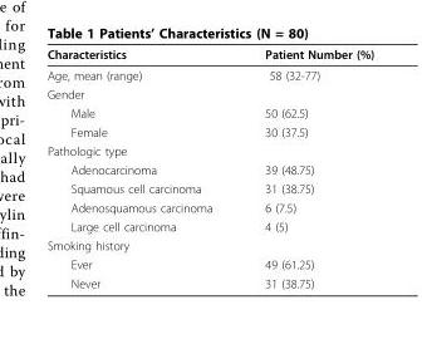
<table><thead><tr><td>Characteristics</td><td>Patient Number (%)</td></tr></thead><tbody><tr><td>Age, mean (range)</td><td>58 (32-77)</td></tr><tr><td colspan="2">Gender</td></tr><tr><td>Male</td><td>50 (62.5)</td></tr><tr><td>Female</td><td>30 (37.5)</td></tr><tr><td colspan="2">Pathologic type</td></tr><tr><td>Adenocarcinoma</td><td>39 (48.75)</td></tr><tr><td>Squamous cell carcinoma</td><td>31 (38.75)</td></tr><tr><td>Adenosquamous carcinoma</td><td>6 (7.5)</td></tr><tr><td>Large cell carcinoma</td><td>4 (5)</td></tr><tr><td colspan="2">Smoking history</td></tr><tr><td>Ever</td><td>49 (61.25)</td></tr><tr><td>Never</td><td>31 (38.75)</td></tr></tbody></table>